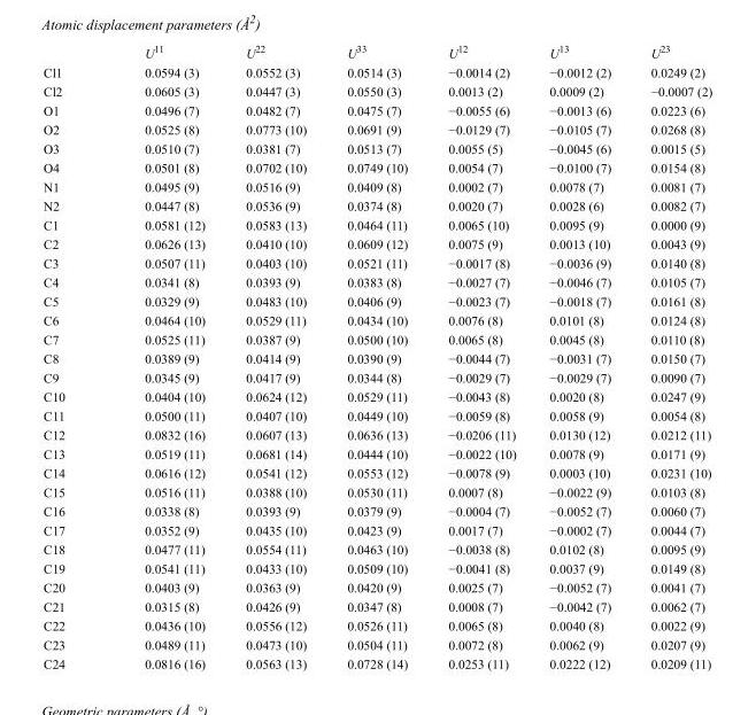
<table><thead><tr><td></td><td>U<sup>11</sup></td><td>U<sup>22</sup></td><td>U<sup>33</sup></td><td>U<sup>12</sup></td><td>U<sup>13</sup></td><td>U<sup>23</sup></td></tr></thead><tbody><tr><td>Cl1</td><td>0.0594 (3)</td><td>0.0552 (3)</td><td>0.0514 (3)</td><td>−0.0014 (2)</td><td>−0.0012 (2)</td><td>0.0249 (2)</td></tr><tr><td>Cl2</td><td>0.0605 (3)</td><td>0.0447 (3)</td><td>0.0550 (3)</td><td>0.0013 (2)</td><td>0.0009 (2)</td><td>−0.0007 (2)</td></tr><tr><td>O1</td><td>0.0496 (7)</td><td>0.0482 (7)</td><td>0.0475 (7)</td><td>−0.0055 (6)</td><td>−0.0013 (6)</td><td>0.0223 (6)</td></tr><tr><td>O2</td><td>0.0525 (8)</td><td>0.0773 (10)</td><td>0.0691 (9)</td><td>−0.0129 (7)</td><td>−0.0105 (7)</td><td>0.0268 (8)</td></tr><tr><td>O3</td><td>0.0510 (7)</td><td>0.0381 (7)</td><td>0.0513 (7)</td><td>0.0055 (5)</td><td>−0.0045 (6)</td><td>0.0015 (5)</td></tr><tr><td>O4</td><td>0.0501 (8)</td><td>0.0702 (10)</td><td>0.0749 (10)</td><td>0.0054 (7)</td><td>−0.0100 (7)</td><td>0.0154 (8)</td></tr><tr><td>N1</td><td>0.0495 (9)</td><td>0.0516 (9)</td><td>0.0409 (8)</td><td>0.0002 (7)</td><td>0.0078 (7)</td><td>0.0081 (7)</td></tr><tr><td>N2</td><td>0.0447 (8)</td><td>0.0536 (9)</td><td>0.0374 (8)</td><td>0.0020 (7)</td><td>0.0028 (6)</td><td>0.0082 (7)</td></tr><tr><td>C1</td><td>0.0581 (12)</td><td>0.0583 (13)</td><td>0.0464 (11)</td><td>0.0065 (10)</td><td>0.0095 (9)</td><td>0.0000 (9)</td></tr><tr><td>C2</td><td>0.0626 (13)</td><td>0.0410 (10)</td><td>0.0609 (12)</td><td>0.0075 (9)</td><td>0.0013 (10)</td><td>0.0043 (9)</td></tr><tr><td>C3</td><td>0.0507 (11)</td><td>0.0403 (10)</td><td>0.0521 (11)</td><td>−0.0017 (8)</td><td>−0.0036 (9)</td><td>0.0140 (8)</td></tr><tr><td>C4</td><td>0.0341 (8)</td><td>0.0393 (9)</td><td>0.0383 (8)</td><td>−0.0027 (7)</td><td>−0.0046 (7)</td><td>0.0105 (7)</td></tr><tr><td>C5</td><td>0.0329 (9)</td><td>0.0483 (10)</td><td>0.0406 (9)</td><td>−0.0023 (7)</td><td>−0.0018 (7)</td><td>0.0161 (8)</td></tr><tr><td>C6</td><td>0.0464 (10)</td><td>0.0529 (11)</td><td>0.0434 (10)</td><td>0.0076 (8)</td><td>0.0101 (8)</td><td>0.0124 (8)</td></tr><tr><td>C7</td><td>0.0525 (11)</td><td>0.0387 (9)</td><td>0.0500 (10)</td><td>0.0065 (8)</td><td>0.0045 (8)</td><td>0.0110 (8)</td></tr><tr><td>C8</td><td>0.0389 (9)</td><td>0.0414 (9)</td><td>0.0390 (9)</td><td>−0.0044 (7)</td><td>−0.0031 (7)</td><td>0.0150 (7)</td></tr><tr><td>C9</td><td>0.0345 (9)</td><td>0.0417 (9)</td><td>0.0344 (8)</td><td>−0.0029 (7)</td><td>−0.0029 (7)</td><td>0.0090 (7)</td></tr><tr><td>C10</td><td>0.0404 (10)</td><td>0.0624 (12)</td><td>0.0529 (11)</td><td>−0.0043 (8)</td><td>0.0020 (8)</td><td>0.0247 (9)</td></tr><tr><td>C11</td><td>0.0500 (11)</td><td>0.0407 (10)</td><td>0.0449 (10)</td><td>−0.0059 (8)</td><td>0.0058 (9)</td><td>0.0054 (8)</td></tr><tr><td>C12</td><td>0.0832 (16)</td><td>0.0607 (13)</td><td>0.0636 (13)</td><td>−0.0206 (11)</td><td>0.0130 (12)</td><td>0.0212 (11)</td></tr><tr><td>C13</td><td>0.0519 (11)</td><td>0.0681 (14)</td><td>0.0444 (10)</td><td>−0.0022 (10)</td><td>0.0078 (9)</td><td>0.0171 (9)</td></tr><tr><td>C14</td><td>0.0616 (12)</td><td>0.0541 (12)</td><td>0.0553 (12)</td><td>−0.0078 (9)</td><td>0.0003 (10)</td><td>0.0231 (10)</td></tr><tr><td>C15</td><td>0.0516 (11)</td><td>0.0388 (10)</td><td>0.0530 (11)</td><td>0.0007 (8)</td><td>−0.0022 (9)</td><td>0.0103 (8)</td></tr><tr><td>C16</td><td>0.0338 (8)</td><td>0.0393 (9)</td><td>0.0379 (9)</td><td>−0.0004 (7)</td><td>−0.0052 (7)</td><td>0.0060 (7)</td></tr><tr><td>C17</td><td>0.0352 (9)</td><td>0.0435 (10)</td><td>0.0423 (9)</td><td>0.0017 (7)</td><td>−0.0002 (7)</td><td>0.0044 (7)</td></tr><tr><td>C18</td><td>0.0477 (11)</td><td>0.0554 (11)</td><td>0.0463 (10)</td><td>−0.0038 (8)</td><td>0.0102 (8)</td><td>0.0095 (9)</td></tr><tr><td>C19</td><td>0.0541 (11)</td><td>0.0433 (10)</td><td>0.0509 (10)</td><td>−0.0041 (8)</td><td>0.0037 (9)</td><td>0.0149 (8)</td></tr><tr><td>C20</td><td>0.0403 (9)</td><td>0.0363 (9)</td><td>0.0420 (9)</td><td>0.0025 (7)</td><td>−0.0052 (7)</td><td>0.0041 (7)</td></tr><tr><td>C21</td><td>0.0315 (8)</td><td>0.0426 (9)</td><td>0.0347 (8)</td><td>0.0008 (7)</td><td>−0.0042 (7)</td><td>0.0062 (7)</td></tr><tr><td>C22</td><td>0.0436 (10)</td><td>0.0556 (12)</td><td>0.0526 (11)</td><td>0.0065 (8)</td><td>0.0040 (8)</td><td>0.0022 (9)</td></tr><tr><td>C23</td><td>0.0489 (11)</td><td>0.0473 (10)</td><td>0.0504 (11)</td><td>0.0072 (8)</td><td>0.0062 (9)</td><td>0.0207 (9)</td></tr><tr><td>C24</td><td>0.0816 (16)</td><td>0.0563 (13)</td><td>0.0728 (14)</td><td>0.0253 (11)</td><td>0.0222 (12)</td><td>0.0209 (11)</td></tr></tbody></table>